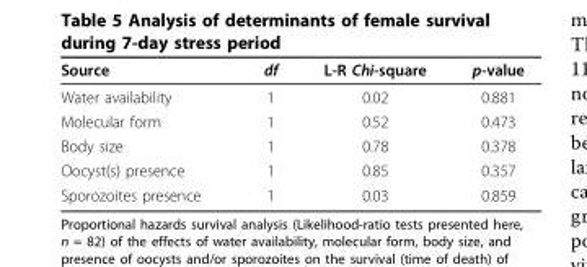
<table><thead><tr><td>Source</td><td>df</td><td>L-R Chi-square</td><td>p-value</td></tr></thead><tbody><tr><td>Water availability</td><td>1</td><td>0.02</td><td>0.881</td></tr><tr><td>Molecular form</td><td>1</td><td>0.52</td><td>0.473</td></tr><tr><td>Body size</td><td>1</td><td>0.78</td><td>0.378</td></tr><tr><td>Oocyst(s) presence</td><td>1</td><td>0.85</td><td>0.357</td></tr><tr><td>Sporozoites presence</td><td>1</td><td>0.03</td><td>0.859</td></tr></tbody></table>